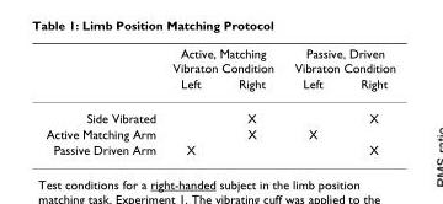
<table><thead><tr><td rowspan="2"></td><td colspan="2">Active, Matching Vibraton Condition</td><td colspan="2">Passive, Driven Vibraton Condition</td></tr><tr><td>Left</td><td>Right</td><td>Left</td><td>Right</td></tr></thead><tbody><tr><td>Side Vibrated</td><td></td><td>X</td><td></td><td>X</td></tr><tr><td>Active Matching Arm</td><td></td><td>X</td><td>X</td><td></td></tr><tr><td>Passive Driven Arm</td><td>X</td><td></td><td></td><td>X</td></tr></tbody></table>